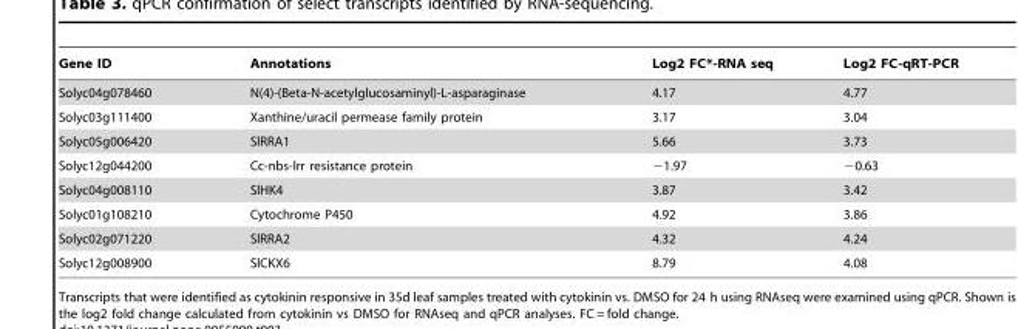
<table><thead><tr><td>Gene ID</td><td>Annotations</td><td>Log2 FC*-RNA seq</td><td>Log2 FC-qRT-PCR</td></tr></thead><tbody><tr><td>Solyc04g078460</td><td>N(4)-(Beta-N-acetylglucosaminyl)-L-asparaginase</td><td>4.17</td><td>4.77</td></tr><tr><td>Solyc03g111400</td><td>Xanthine/uracil permease family protein</td><td>3.17</td><td>3.04</td></tr><tr><td>Solyc05g006420</td><td>SlRRA1</td><td>5.66</td><td>3.73</td></tr><tr><td>Solyc12g044200</td><td>Cc-nbs-lrr resistance protein</td><td>−1.97</td><td>−0.63</td></tr><tr><td>Solyc04g008110</td><td>SlHK4</td><td>3.87</td><td>3.42</td></tr><tr><td>Solyc01g108210</td><td>Cytochrome P450</td><td>4.92</td><td>3.86</td></tr><tr><td>Solyc02g071220</td><td>SlRRA2</td><td>4.32</td><td>4.24</td></tr><tr><td>Solyc12g008900</td><td>SlCKX6</td><td>8.79</td><td>4.08</td></tr></tbody></table>